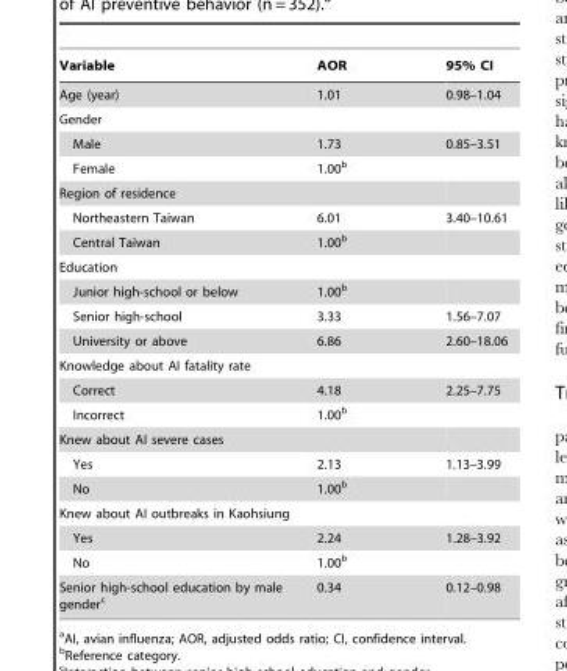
<table><thead><tr><td>Variable</td><td>AOR</td><td>95% CI</td></tr></thead><tbody><tr><td>Age (year)</td><td>1.01</td><td>0.98–1.04</td></tr><tr><td colspan="3">Gender</td></tr><tr><td>Male</td><td>1.73</td><td>0.85–3.51</td></tr><tr><td>Female</td><td>1.00<sup>b</sup></td><td></td></tr><tr><td colspan="3">Region of residence</td></tr><tr><td>Northeastern Taiwan</td><td>6.01</td><td>3.40–10.61</td></tr><tr><td>Central Taiwan</td><td>1.00<sup>b</sup></td><td></td></tr><tr><td colspan="3">Education</td></tr><tr><td>Junior high-school or below</td><td>1.00<sup>b</sup></td><td></td></tr><tr><td>Senior high-school</td><td>3.33</td><td>1.56–7.07</td></tr><tr><td>University or above</td><td>6.86</td><td>2.60–18.06</td></tr><tr><td colspan="3">Knowledge about AI fatality rate</td></tr><tr><td>Correct</td><td>4.18</td><td>2.25–7.75</td></tr><tr><td>Incorrect</td><td>1.00<sup>b</sup></td><td></td></tr><tr><td colspan="3">Knew about AI severe cases</td></tr><tr><td>Yes</td><td>2.13</td><td>1.13–3.99</td></tr><tr><td>No</td><td>1.00<sup>b</sup></td><td></td></tr><tr><td colspan="3">Knew about AI outbreaks in Kaohsiung</td></tr><tr><td>Yes</td><td>2.24</td><td>1.28–3.92</td></tr><tr><td>No</td><td>1.00<sup>b</sup></td><td></td></tr><tr><td>Senior high-school education by male gender<sup>c</sup></td><td>0.34</td><td>0.12–0.98</td></tr></tbody></table>